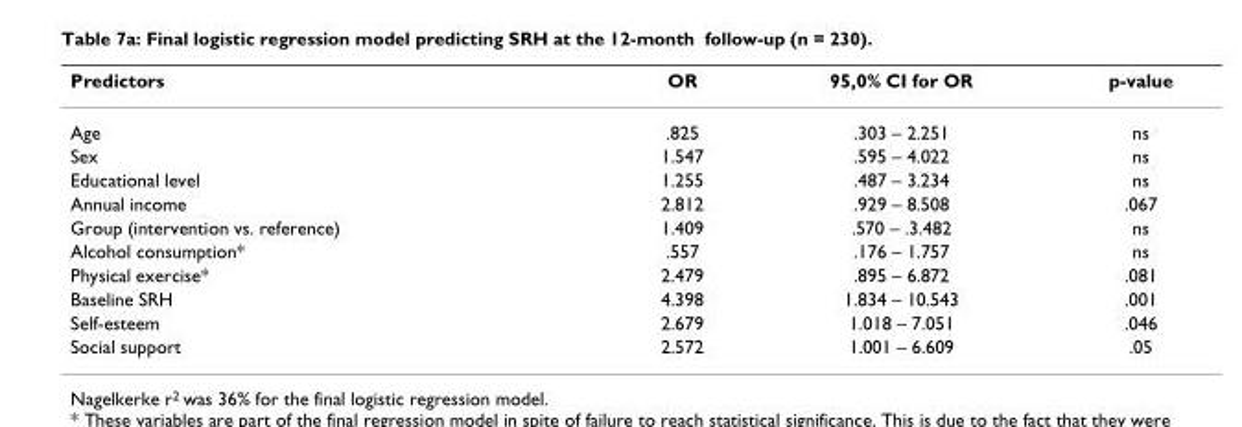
<table><thead><tr><td>Predictors</td><td>OR</td><td>95,0% CI for OR</td><td>p-value</td></tr></thead><tbody><tr><td>Age</td><td>.825</td><td>.303 – 2.251</td><td>ns</td></tr><tr><td>Sex</td><td>1.547</td><td>.595 – 4.022</td><td>ns</td></tr><tr><td>Educational level</td><td>1.255</td><td>.487 – 3.234</td><td>ns</td></tr><tr><td>Annual income</td><td>2.812</td><td>.929 – 8.508</td><td>.067</td></tr><tr><td>Group (intervention vs. reference)</td><td>1.409</td><td>.570 – .3.482</td><td>ns</td></tr><tr><td>Alcohol consumption*</td><td>.557</td><td>.176 – 1.757</td><td>ns</td></tr><tr><td>Physical exercise*</td><td>2.479</td><td>.895 – 6.872</td><td>.081</td></tr><tr><td>Baseline SRH</td><td>4.398</td><td>1.834 – 10.543</td><td>.001</td></tr><tr><td>Self-esteem</td><td>2.679</td><td>1.018 – 7.051</td><td>.046</td></tr><tr><td>Social support</td><td>2.572</td><td>1.001 – 6.609</td><td>.05</td></tr></tbody></table>